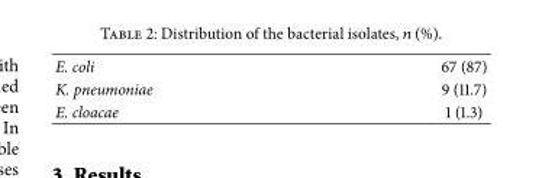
<table><tbody><tr><td>E. coli</td><td>67 (87)</td></tr><tr><td>K. pneumoniae</td><td>9 (11.7)</td></tr><tr><td>E. cloacae</td><td>1 (1.3)</td></tr></tbody></table>